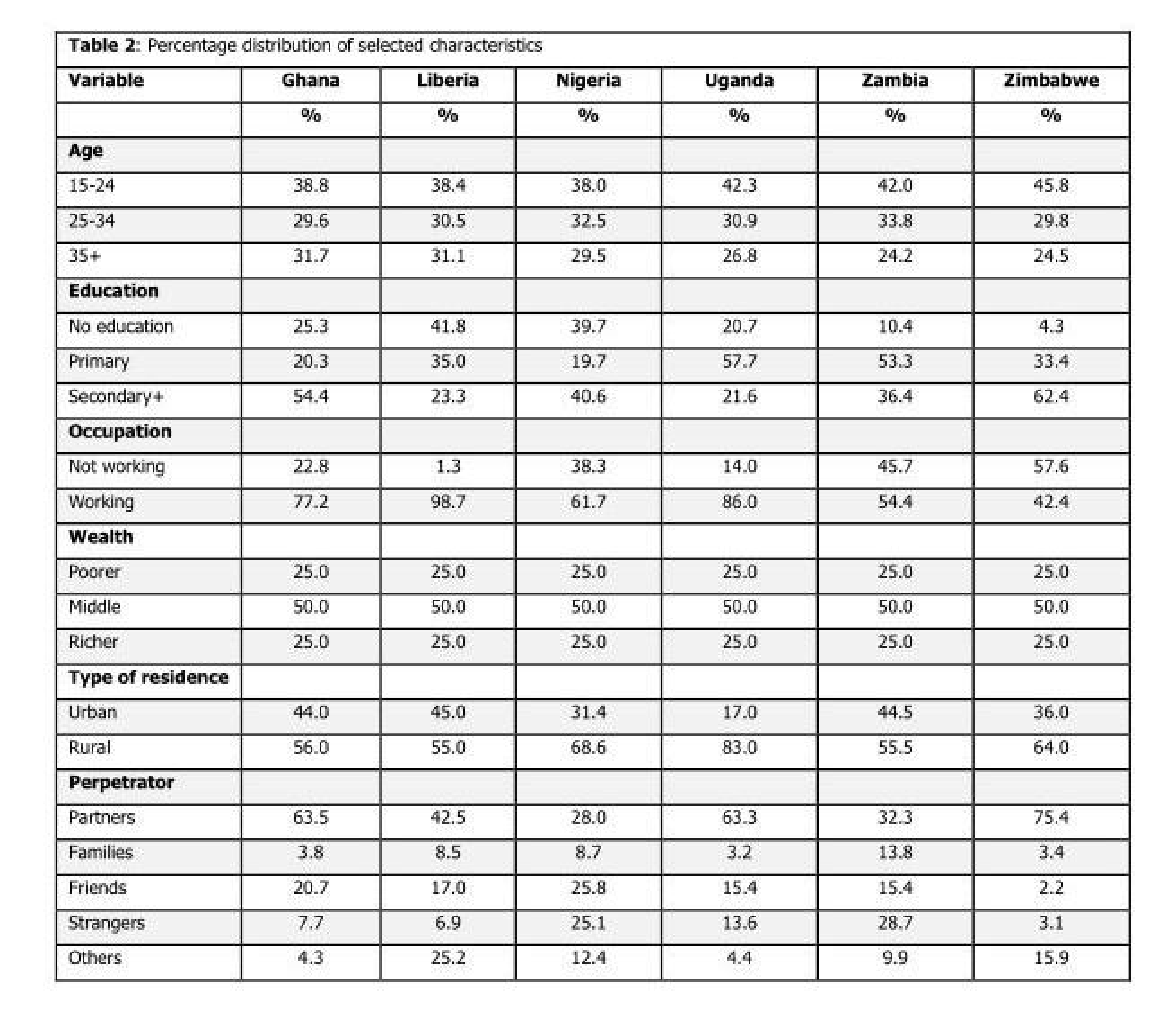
<table><thead><tr><td>Variable</td><td>Ghana %</td><td>Liberia %</td><td>Nigeria %</td><td>Uganda %</td><td>Zambia %</td><td>Zimbabwe %</td></tr></thead><tbody><tr><td colspan="7">Age</td></tr><tr><td>15-24</td><td>38.8</td><td>38.4</td><td>38.0</td><td>42.3</td><td>42.0</td><td>45.8</td></tr><tr><td>25-34</td><td>29.6</td><td>30.5</td><td>32.5</td><td>30.9</td><td>33.8</td><td>29.8</td></tr><tr><td>35+</td><td>31.7</td><td>31.1</td><td>29.5</td><td>26.8</td><td>24.2</td><td>24.5</td></tr><tr><td colspan="7">Education</td></tr><tr><td>No education</td><td>25.3</td><td>41.8</td><td>39.7</td><td>20.7</td><td>10.4</td><td>4.3</td></tr><tr><td>Primary</td><td>20.3</td><td>35.0</td><td>19.7</td><td>57.7</td><td>53.3</td><td>33.4</td></tr><tr><td>Secondary+</td><td>54.4</td><td>23.3</td><td>40.6</td><td>21.6</td><td>36.4</td><td>62.4</td></tr><tr><td colspan="7">Occupation</td></tr><tr><td>Not working</td><td>22.8</td><td>1.3</td><td>38.3</td><td>14.0</td><td>45.7</td><td>57.6</td></tr><tr><td>Working</td><td>77.2</td><td>98.7</td><td>61.7</td><td>86.0</td><td>54.4</td><td>42.4</td></tr><tr><td colspan="7">Wealth</td></tr><tr><td>Poorer</td><td>25.0</td><td>25.0</td><td>25.0</td><td>25.0</td><td>25.0</td><td>25.0</td></tr><tr><td>Middle</td><td>50.0</td><td>50.0</td><td>50.0</td><td>50.0</td><td>50.0</td><td>50.0</td></tr><tr><td>Richer</td><td>25.0</td><td>25.0</td><td>25.0</td><td>25.0</td><td>25.0</td><td>25.0</td></tr><tr><td colspan="7">Type of residence</td></tr><tr><td>Urban</td><td>44.0</td><td>45.0</td><td>31.4</td><td>17.0</td><td>44.5</td><td>36.0</td></tr><tr><td>Rural</td><td>56.0</td><td>55.0</td><td>68.6</td><td>83.0</td><td>55.5</td><td>64.0</td></tr><tr><td colspan="7">Perpetrator</td></tr><tr><td>Partners</td><td>63.5</td><td>42.5</td><td>28.0</td><td>63.3</td><td>32.3</td><td>75.4</td></tr><tr><td>Families</td><td>3.8</td><td>8.5</td><td>8.7</td><td>3.2</td><td>13.8</td><td>3.4</td></tr><tr><td>Friends</td><td>20.7</td><td>17.0</td><td>25.8</td><td>15.4</td><td>15.4</td><td>2.2</td></tr><tr><td>Strangers</td><td>7.7</td><td>6.9</td><td>25.1</td><td>13.6</td><td>28.7</td><td>3.1</td></tr><tr><td>Others</td><td>4.3</td><td>25.2</td><td>12.4</td><td>4.4</td><td>9.9</td><td>15.9</td></tr></tbody></table>